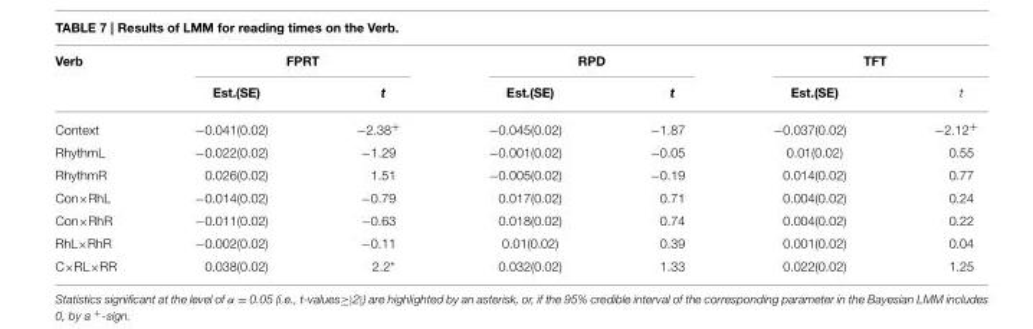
<table><thead><tr><td rowspan="2">Verb</td><td colspan="2">FPRT</td><td colspan="2">RPD</td><td colspan="2">TFT</td></tr><tr><td>Est.(SE)</td><td>t</td><td>Est.(SE)</td><td>t</td><td>Est.(SE)</td><td>t</td></tr></thead><tbody><tr><td>Context</td><td>−0.041(0.02)</td><td>−2.38<sup>+</sup></td><td>−0.045(0.02)</td><td>−1.87</td><td>−0.037(0.02)</td><td>−2.12<sup>+</sup></td></tr><tr><td>RhythmL</td><td>−0.022(0.02)</td><td>−1.29</td><td>−0.001(0.02)</td><td>−0.05</td><td>0.01(0.02)</td><td>0.55</td></tr><tr><td>RhythmR</td><td>0.026(0.02)</td><td>1.51</td><td>−0.005(0.02)</td><td>−0.19</td><td>0.014(0.02)</td><td>0.77</td></tr><tr><td>Con×RhL</td><td>−0.014(0.02)</td><td>−0.79</td><td>0.017(0.02)</td><td>0.71</td><td>0.004(0.02)</td><td>0.24</td></tr><tr><td>Con×RhR</td><td>−0.011(0.02)</td><td>−0.63</td><td>0.018(0.02)</td><td>0.74</td><td>0.004(0.02)</td><td>0.22</td></tr><tr><td>RhL×RhR</td><td>−0.002(0.02)</td><td>−0.11</td><td>0.01(0.02)</td><td>0.39</td><td>0.001(0.02)</td><td>0.04</td></tr><tr><td>C×RL×RR</td><td>0.038(0.02)</td><td>2.2*</td><td>0.032(0.02)</td><td>1.33</td><td>0.022(0.02)</td><td>1.25</td></tr></tbody></table>